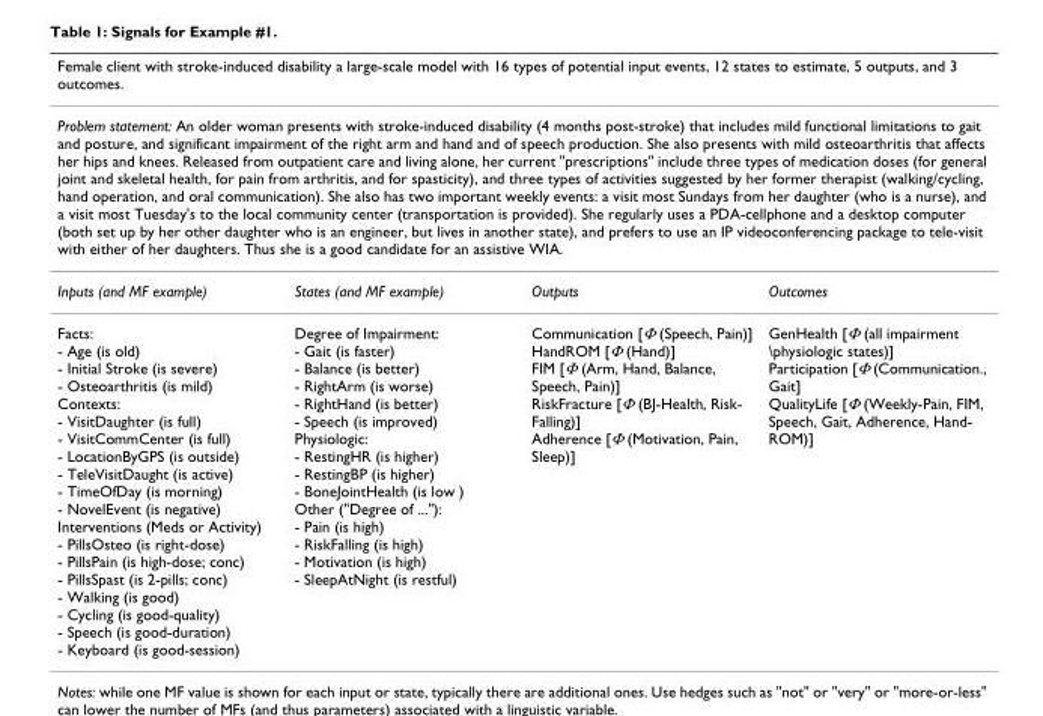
<table><thead><tr><td rowspan="2" colspan="4">Female client with stroke-induced disability a large-scale model with 16 types of potential input events, 12 states to estimate, 5 outputs, and 3 outcomes. Problem statement: An older woman presents with stroke-induced disability (4 months post-stroke) that includes mild functional limitations to gait and posture, and significant impairment of the right arm and hand and of speech production. She also presents with mild osteoarthritis that affects her hips and knees. Released from outpatient care and living alone, her current &quot;prescriptions&quot; include three types of medication doses (for general joint and skeletal health, for pain from arthritis, and for spasticity), and three types of activities suggested by her former therapist (walking/cycling, hand operation, and oral communication). She also has two important weekly events: a visit most Sundays from her daughter (who is a nurse), and a visit most Tuesday&#x27;s to the local community center (transportation is provided). She regularly uses a PDA-cellphone and a desktop computer (both set up by her other daughter who is an engineer, but lives in another state), and prefers to use an IP videoconferencing package to tele-visit with either of her daughters. Thus she is a good candidate for an assistive WIA.</td></tr><tr></tr><tr><td>Inputs (and MF example)</td><td>States (and MF example)</td><td>Outputs</td><td>Outcomes</td></tr></thead><tbody><tr><td>Facts: - Age (is old) - Initial Stroke (is severe) - Osteoarthritis (is mild) Contexts: - VisitDaughter (is full) - VisitCommCenter (is full) - LocationByGPS (is outside) - TeleVisitDaught (is active) - TimeOfDay (is morning) - NovelEvent (is negative) Interventions (Meds or Activity) - PillsOsteo (is right-dose) - PillsPain (is high-dose; conc) - PillsSpast (is 2-pills; conc) - Walking (is good) - Cycling (is good-quality) - Speech (is good-duration) - Keyboard (is good-session)</td><td>Degree of Impairment: - Gait (is faster) - Balance (is better) - RightArm (is worse) - RightHand (is better) - Speech (is improved) Physiologic: - RestingHR (is higher) - RestingBP (is higher) - BoneJointHealth (is low ) Other (&quot;Degree of ...&quot;): - Pain (is high) - RiskFalling (is high) - Motivation (is high) - SleepAtNight (is restful)</td><td>Communication [Φ (Speech, Pain)] HandROM [Φ (Hand)] FIM [Φ (Arm, Hand, Balance, Speech, Pain)] RiskFracture [Φ (BJ-Health, Risk- Falling)] Adherence [Φ (Motivation, Pain, Sleep)]</td><td>GenHealth [Φ (all impairment \physiologic states)] Participation [Φ (Communication., Gait] QualityLife [Φ (Weekly-Pain, FIM, Speech, Gait, Adherence, Hand- ROM)]</td></tr></tbody></table>